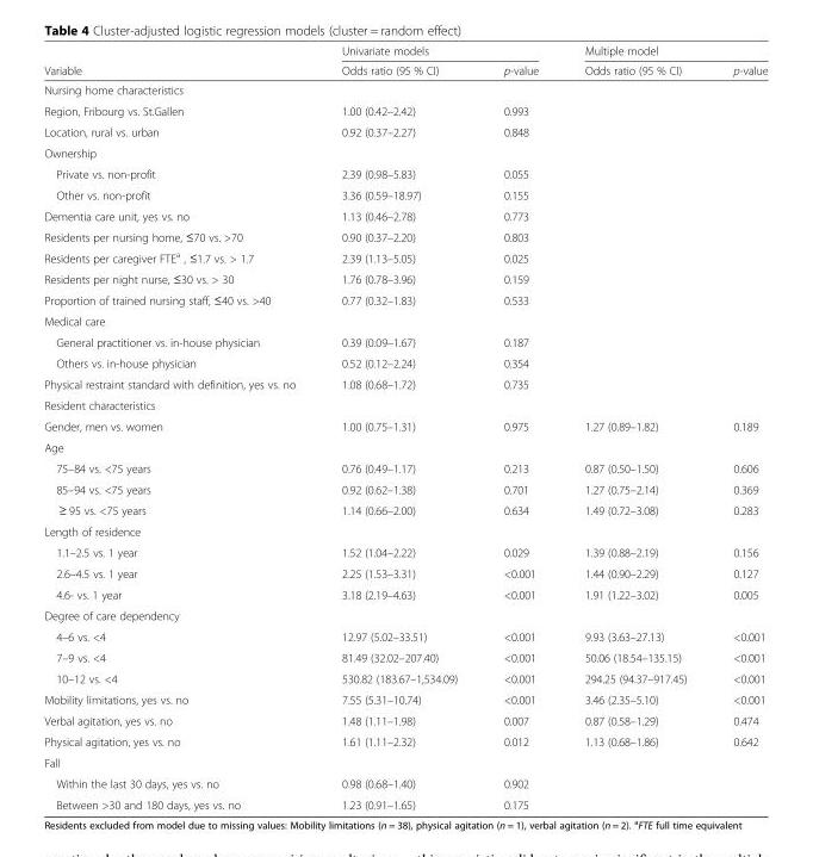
<table><thead><tr><td rowspan="2">Variable</td><td colspan="2">Univariate models</td><td colspan="2">Multiple model</td></tr><tr><td>Odds ratio (95 % CI)</td><td>p-value</td><td>Odds ratio (95 % CI)</td><td>p-value</td></tr></thead><tbody><tr><td colspan="5">Nursing home characteristics</td></tr><tr><td>Region, Fribourg vs. St.Gallen</td><td>1.00 (0.42–2.42)</td><td>0.993</td><td></td><td></td></tr><tr><td>Location, rural vs. urban</td><td>0.92 (0.37–2.27)</td><td>0.848</td><td></td><td></td></tr><tr><td colspan="5">Ownership</td></tr><tr><td>Private vs. non-profit</td><td>2.39 (0.98–5.83)</td><td>0.055</td><td></td><td></td></tr><tr><td>Other vs. non-profit</td><td>3.36 (0.59–18.97)</td><td>0.155</td><td></td><td></td></tr><tr><td>Dementia care unit, yes vs. no</td><td>1.13 (0.46–2.78)</td><td>0.773</td><td></td><td></td></tr><tr><td>Residents per nursing home, ≤70 vs. &gt;70</td><td>0.90 (0.37–2.20)</td><td>0.803</td><td></td><td></td></tr><tr><td>Residents per caregiver FTE<sup>a</sup> , ≤1.7 vs. &gt; 1.7</td><td>2.39 (1.13–5.05)</td><td>0.025</td><td></td><td></td></tr><tr><td>Residents per night nurse, ≤30 vs. &gt; 30</td><td>1.76 (0.78–3.96)</td><td>0.159</td><td></td><td></td></tr><tr><td>Proportion of trained nursing staff, ≤40 vs. &gt;40</td><td>0.77 (0.32–1.83)</td><td>0.533</td><td></td><td></td></tr><tr><td colspan="5">Medical care</td></tr><tr><td>General practitioner vs. in-house physician</td><td>0.39 (0.09–1.67)</td><td>0.187</td><td></td><td></td></tr><tr><td>Others vs. in-house physician</td><td>0.52 (0.12–2.24)</td><td>0.354</td><td></td><td></td></tr><tr><td>Physical restraint standard with definition, yes vs. no</td><td>1.08 (0.68–1.72)</td><td>0.735</td><td></td><td></td></tr><tr><td colspan="5">Resident characteristics</td></tr><tr><td>Gender, men vs. women</td><td>1.00 (0.75–1.31)</td><td>0.975</td><td>1.27 (0.89–1.82)</td><td>0.189</td></tr><tr><td colspan="5">Age</td></tr><tr><td>75–84 vs. &lt;75 years</td><td>0.76 (0.49–1.17)</td><td>0.213</td><td>0.87 (0.50–1.50)</td><td>0.606</td></tr><tr><td>85–94 vs. &lt;75 years</td><td>0.92 (0.62–1.38)</td><td>0.701</td><td>1.27 (0.75–2.14)</td><td>0.369</td></tr><tr><td>≥ 95 vs. &lt;75 years</td><td>1.14 (0.66–2.00)</td><td>0.634</td><td>1.49 (0.72–3.08)</td><td>0.283</td></tr><tr><td colspan="5">Length of residence</td></tr><tr><td>1.1–2.5 vs. 1 year</td><td>1.52 (1.04–2.22)</td><td>0.029</td><td>1.39 (0.88–2.19)</td><td>0.156</td></tr><tr><td>2.6–4.5 vs. 1 year</td><td>2.25 (1.53–3.31)</td><td>&lt;0.001</td><td>1.44 (0.90–2.29)</td><td>0.127</td></tr><tr><td>4.6- vs. 1 year</td><td>3.18 (2.19–4.63)</td><td>&lt;0.001</td><td>1.91 (1.22–3.02)</td><td>0.005</td></tr><tr><td colspan="5">Degree of care dependency</td></tr><tr><td>4–6 vs. &lt;4</td><td>12.97 (5.02–33.51)</td><td>&lt;0.001</td><td>9.93 (3.63–27.13)</td><td>&lt;0.001</td></tr><tr><td>7–9 vs. &lt;4</td><td>81.49 (32.02–207.40)</td><td>&lt;0.001</td><td>50.06 (18.54–135.15)</td><td>&lt;0.001</td></tr><tr><td>10–12 vs. &lt;4</td><td>530.82 (183.67–1,534.09)</td><td>&lt;0.001</td><td>294.25 (94.37–917.45)</td><td>&lt;0.001</td></tr><tr><td>Mobility limitations, yes vs. no</td><td>7.55 (5.31–10.74)</td><td>&lt;0.001</td><td>3.46 (2.35–5.10)</td><td>&lt;0.001</td></tr><tr><td>Verbal agitation, yes vs. no</td><td>1.48 (1.11–1.98)</td><td>0.007</td><td>0.87 (0.58–1.29)</td><td>0.474</td></tr><tr><td>Physical agitation, yes vs. no</td><td>1.61 (1.11–2.32)</td><td>0.012</td><td>1.13 (0.68–1.86)</td><td>0.642</td></tr><tr><td colspan="5">Fall</td></tr><tr><td>Within the last 30 days, yes vs. no</td><td>0.98 (0.68–1.40)</td><td>0.902</td><td></td><td></td></tr><tr><td>Between &gt;30 and 180 days, yes vs. no</td><td>1.23 (0.91–1.65)</td><td>0.175</td><td></td><td></td></tr></tbody></table>